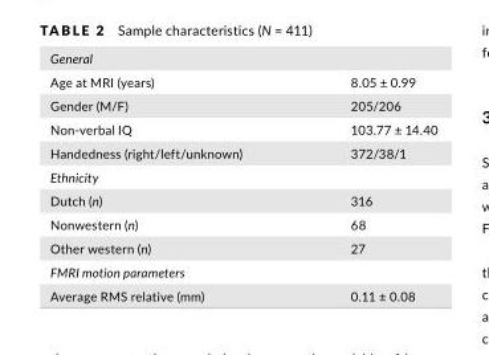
<table><tbody><tr><td colspan="2">General</td></tr><tr><td>Age at MRI (years)</td><td>8.05 ± 0.99</td></tr><tr><td>Gender (M/F)</td><td>205/206</td></tr><tr><td>Non- verbal IQ</td><td>103.77 ± 14.40</td></tr><tr><td>Handedness (right/left/unknown)</td><td>372/38/1</td></tr><tr><td colspan="2">Ethnicity</td></tr><tr><td>Dutch (n)</td><td>316</td></tr><tr><td>Nonwestern (n)</td><td>68</td></tr><tr><td>Other western (n)</td><td>27</td></tr><tr><td colspan="2">FMRI motion parameters</td></tr><tr><td>Average RMS relative (mm)</td><td>0.11 ± 0.08</td></tr></tbody></table>